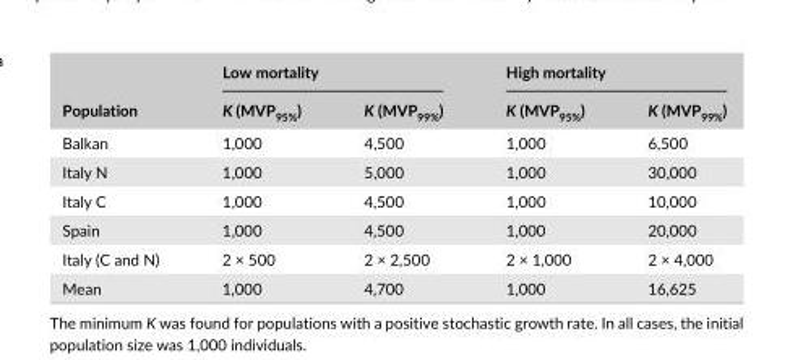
<table><thead><tr><td rowspan="2">Population</td><td colspan="2">Low mortality</td><td colspan="2">High mortality</td></tr><tr><td>K (MVP<sub>95%</sub>)</td><td>K (MVP<sub>99%</sub>)</td><td>K (MVP<sub>95%</sub>)</td><td>K (MVP<sub>99%</sub>)</td></tr></thead><tbody><tr><td>Balkan</td><td>1,000</td><td>4,500</td><td>1,000</td><td>6,500</td></tr><tr><td>Italy N</td><td>1,000</td><td>5,000</td><td>1,000</td><td>30,000</td></tr><tr><td>Italy C</td><td>1,000</td><td>4,500</td><td>1,000</td><td>10,000</td></tr><tr><td>Spain</td><td>1,000</td><td>4,500</td><td>1,000</td><td>20,000</td></tr><tr><td>Italy (C and N)</td><td>2 × 500</td><td>2 × 2,500</td><td>2 × 1,000</td><td>2 × 4,000</td></tr><tr><td>Mean</td><td>1,000</td><td>4,700</td><td>1,000</td><td>16,625</td></tr></tbody></table>